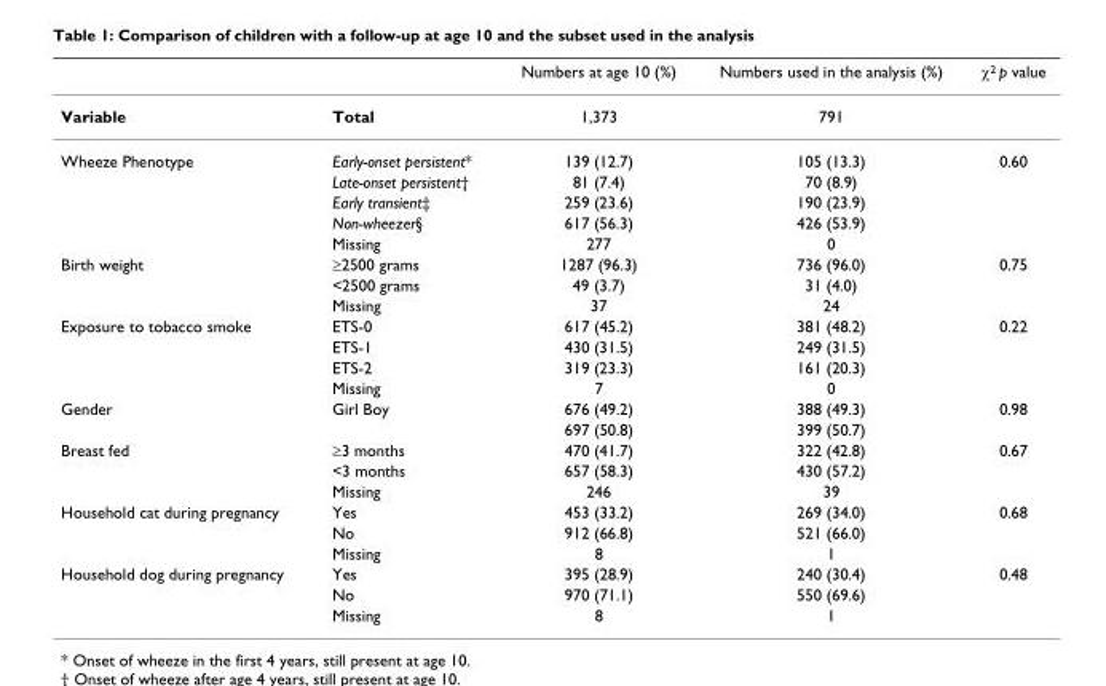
<table><thead><tr><td></td><td></td><td>Numbers at age 10 (%)</td><td>Numbers used in the analysis (%)</td><td>χ<sup>2</sup> p value</td></tr></thead><tbody><tr><td>Variable</td><td>Total</td><td>1,373</td><td>791</td><td></td></tr><tr><td rowspan="5">Wheeze Phenotype</td><td>Early-onset persistent*</td><td>139 (12.7)</td><td>105 (13.3)</td><td>0.60</td></tr><tr><td>Late-onset persistent†</td><td>81 (7.4)</td><td>70 (8.9)</td><td></td></tr><tr><td>Early transient‡</td><td>259 (23.6)</td><td>190 (23.9)</td><td></td></tr><tr><td>Non-wheezer§</td><td>617 (56.3)</td><td>426 (53.9)</td><td></td></tr><tr><td>Missing</td><td>277</td><td>0</td><td></td></tr><tr><td rowspan="3">Birth weight</td><td>≥2500 grams</td><td>1287 (96.3)</td><td>736 (96.0)</td><td>0.75</td></tr><tr><td>&lt;2500 grams</td><td>49 (3.7)</td><td>31 (4.0)</td><td></td></tr><tr><td>Missing</td><td>37</td><td>24</td><td></td></tr><tr><td rowspan="4">Exposure to tobacco smoke</td><td>ETS-0</td><td>617 (45.2)</td><td>381 (48.2)</td><td>0.22</td></tr><tr><td>ETS-1</td><td>430 (31.5)</td><td>249 (31.5)</td><td></td></tr><tr><td>ETS-2</td><td>319 (23.3)</td><td>161 (20.3)</td><td></td></tr><tr><td>Missing</td><td>7</td><td>0</td><td></td></tr><tr><td rowspan="2">Gender</td><td>Girl Boy</td><td>676 (49.2)</td><td>388 (49.3)</td><td>0.98</td></tr><tr><td></td><td>697 (50.8)</td><td>399 (50.7)</td><td></td></tr><tr><td rowspan="3">Breast fed</td><td>≥3 months</td><td>470 (41.7)</td><td>322 (42.8)</td><td>0.67</td></tr><tr><td>&lt;3 months</td><td>657 (58.3)</td><td>430 (57.2)</td><td></td></tr><tr><td>Missing</td><td>246</td><td>39</td><td></td></tr><tr><td rowspan="3">Household cat during pregnancy</td><td>Yes</td><td>453 (33.2)</td><td>269 (34.0)</td><td>0.68</td></tr><tr><td>No</td><td>912 (66.8)</td><td>521 (66.0)</td><td></td></tr><tr><td>Missing</td><td>8</td><td>1</td><td></td></tr><tr><td rowspan="3">Household dog during pregnancy</td><td>Yes</td><td>395 (28.9)</td><td>240 (30.4)</td><td>0.48</td></tr><tr><td>No</td><td>970 (71.1)</td><td>550 (69.6)</td><td></td></tr><tr><td>Missing</td><td>8</td><td>1</td><td></td></tr></tbody></table>